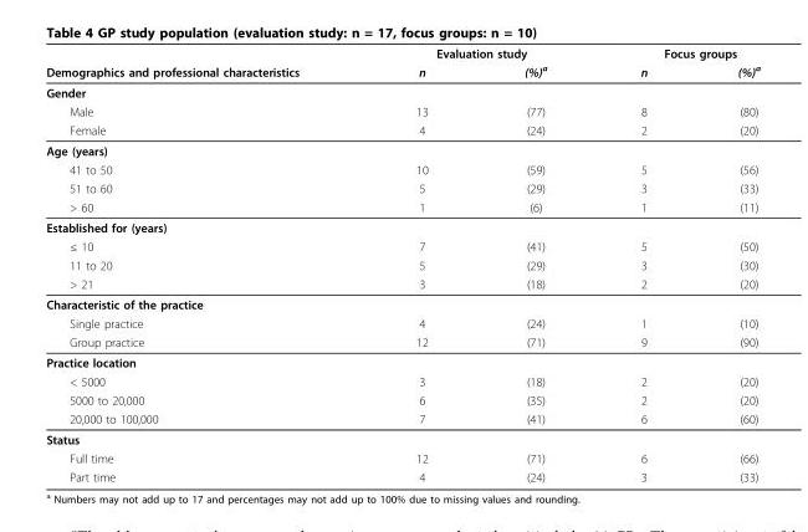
<table><thead><tr><td rowspan="2">Demographics and professional characteristics</td><td colspan="2">Evaluation study</td><td colspan="2">Focus groups</td></tr><tr><td>n</td><td>(%)a</td><td>n</td><td>(%)a</td></tr></thead><tbody><tr><td colspan="5">Gender</td></tr><tr><td>Male</td><td>13</td><td>(77)</td><td>8</td><td>(80)</td></tr><tr><td>Female</td><td>4</td><td>(24)</td><td>2</td><td>(20)</td></tr><tr><td colspan="5">Age (years)</td></tr><tr><td>41 to 50</td><td>10</td><td>(59)</td><td>5</td><td>(56)</td></tr><tr><td>51 to 60</td><td>5</td><td>(29)</td><td>3</td><td>(33)</td></tr><tr><td>&gt; 60</td><td>1</td><td>(6)</td><td>1</td><td>(11)</td></tr><tr><td colspan="5">Established for (years)</td></tr><tr><td>≤ 10</td><td>7</td><td>(41)</td><td>5</td><td>(50)</td></tr><tr><td>11 to 20</td><td>5</td><td>(29)</td><td>3</td><td>(30)</td></tr><tr><td>&gt; 21</td><td>3</td><td>(18)</td><td>2</td><td>(20)</td></tr><tr><td colspan="5">Characteristic of the practice</td></tr><tr><td>Single practice</td><td>4</td><td>(24)</td><td>1</td><td>(10)</td></tr><tr><td>Group practice</td><td>12</td><td>(71)</td><td>9</td><td>(90)</td></tr><tr><td colspan="5">Practice location</td></tr><tr><td>&lt; 5000</td><td>3</td><td>(18)</td><td>2</td><td>(20)</td></tr><tr><td>5000 to 20,000</td><td>6</td><td>(35)</td><td>2</td><td>(20)</td></tr><tr><td>20,000 to 100,000</td><td>7</td><td>(41)</td><td>6</td><td>(60)</td></tr><tr><td colspan="5">Status</td></tr><tr><td>Full time</td><td>12</td><td>(71)</td><td>6</td><td>(66)</td></tr><tr><td>Part time</td><td>4</td><td>(24)</td><td>3</td><td>(33)</td></tr></tbody></table>